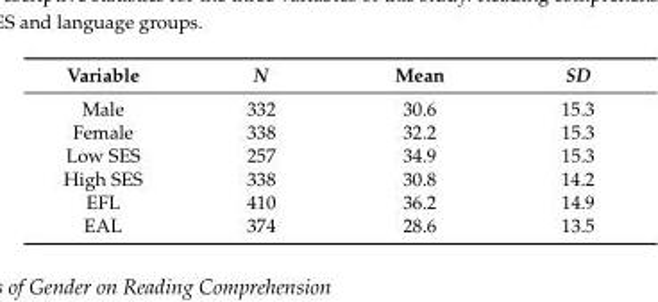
<table><thead><tr><td>Variable</td><td>N</td><td>Mean</td><td>SD</td></tr></thead><tbody><tr><td>Male</td><td>332</td><td>30.6</td><td>15.3</td></tr><tr><td>Female</td><td>338</td><td>32.2</td><td>15.3</td></tr><tr><td>Low SES</td><td>257</td><td>34.9</td><td>15.3</td></tr><tr><td>High SES</td><td>338</td><td>30.8</td><td>14.2</td></tr><tr><td>EFL</td><td>410</td><td>36.2</td><td>14.9</td></tr><tr><td>EAL</td><td>374</td><td>28.6</td><td>13.5</td></tr></tbody></table>